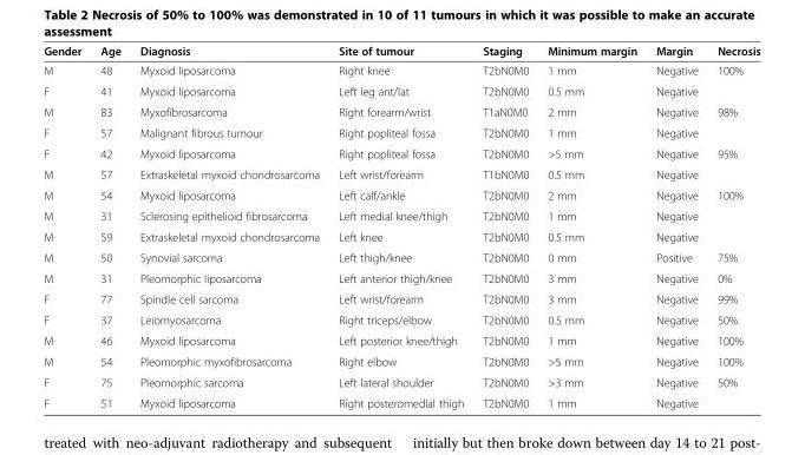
<table><thead><tr><td>Gender</td><td>Age</td><td>Diagnosis</td><td>Site of tumour</td><td>Staging</td><td>Minimum margin</td><td>Margin</td><td>Necrosis</td></tr></thead><tbody><tr><td>M</td><td>48</td><td>Myxoid liposarcoma</td><td>Right knee</td><td>T2bN0M0</td><td>1 mm</td><td>Negative</td><td>100%</td></tr><tr><td>F</td><td>41</td><td>Myxoid liposarcoma</td><td>Left leg ant/lat</td><td>T2bN0M0</td><td>0.5 mm</td><td>Negative</td><td></td></tr><tr><td>M</td><td>83</td><td>Myxofibrosarcoma</td><td>Right forearm/wrist</td><td>T1aN0M0</td><td>2 mm</td><td>Negative</td><td>98%</td></tr><tr><td>F</td><td>57</td><td>Malignant fibrous tumour</td><td>Right popliteal fossa</td><td>T2bN0M0</td><td>1 mm</td><td>Negative</td><td></td></tr><tr><td>F</td><td>42</td><td>Myxoid liposarcoma</td><td>Right popliteal fossa</td><td>T2bN0M0</td><td>&gt;5 mm</td><td>Negative</td><td>95%</td></tr><tr><td>M</td><td>57</td><td>Extraskeletal myxoid chondrosarcoma</td><td>Left wrist/forearm</td><td>T1bN0M0</td><td>0.5 mm</td><td>Negative</td><td></td></tr><tr><td>M</td><td>54</td><td>Myxoid liposarcoma</td><td>Left calf/ankle</td><td>T2bN0M0</td><td>2 mm</td><td>Negative</td><td>100%</td></tr><tr><td>M</td><td>31</td><td>Sclerosing epithelioid fibrosarcoma</td><td>Left medial knee/thigh</td><td>T2bN0M0</td><td>1 mm</td><td>Negative</td><td></td></tr><tr><td>M</td><td>59</td><td>Extraskeletal myxoid chondrosarcoma</td><td>Left knee</td><td>T2bN0M0</td><td>0.5 mm</td><td>Negative</td><td></td></tr><tr><td>M</td><td>50</td><td>Synovial sarcoma</td><td>Left thigh/knee</td><td>T2bN0M0</td><td>0 mm</td><td>Positive</td><td>75%</td></tr><tr><td>M</td><td>31</td><td>Pleomorphic liposarcoma</td><td>Left anterior thigh/knee</td><td>T2bN0M0</td><td>3 mm</td><td>Negative</td><td>0%</td></tr><tr><td>F</td><td>77</td><td>Spindle cell sarcoma</td><td>Left wrist/forearm</td><td>T2bN0M0</td><td>3 mm</td><td>Negative</td><td>99%</td></tr><tr><td>F</td><td>37</td><td>Leiomyosarcoma</td><td>Right triceps/elbow</td><td>T2bN0M0</td><td>0.5 mm</td><td>Negative</td><td>50%</td></tr><tr><td>M</td><td>46</td><td>Myxoid liposarcoma</td><td>Left posterior knee/thigh</td><td>T2bN0M0</td><td>1 mm</td><td>Negative</td><td>100%</td></tr><tr><td>M</td><td>54</td><td>Pleomorphic myxofibrosarcoma</td><td>Right elbow</td><td>T2bN0M0</td><td>&gt;5 mm</td><td>Negative</td><td>100%</td></tr><tr><td>F</td><td>75</td><td>Pleomorphic sarcoma</td><td>Left lateral shoulder</td><td>T2bN0M0</td><td>&gt;3 mm</td><td>Negative</td><td>50%</td></tr><tr><td>F</td><td>51</td><td>Myxoid liposarcoma</td><td>Right posteromedial thigh</td><td>T2bN0M0</td><td>1 mm</td><td>Negative</td><td></td></tr></tbody></table>